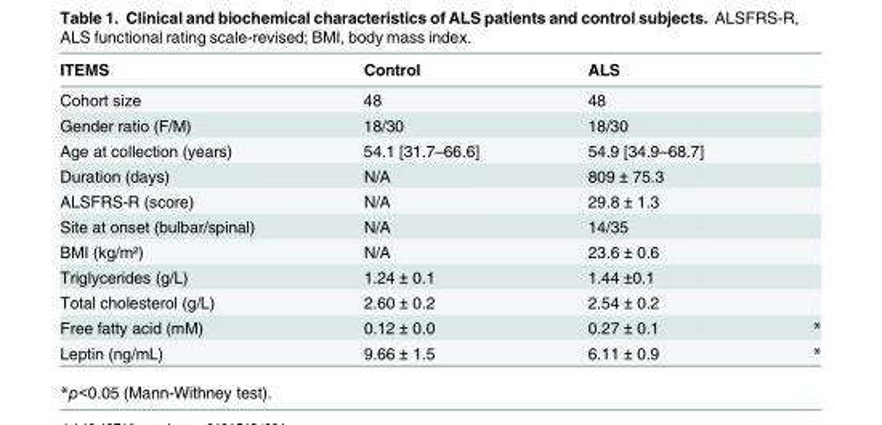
<table><thead><tr><td>ITEMS</td><td>Control</td><td>ALS</td><td></td></tr></thead><tbody><tr><td>Cohort size</td><td>48</td><td>48</td><td></td></tr><tr><td>Gender ratio (F/M)</td><td>18/30</td><td>18/30</td><td></td></tr><tr><td>Age at collection (years)</td><td>54.1 [31.7–66.6]</td><td>54.9 [34.9–68.7]</td><td></td></tr><tr><td>Duration (days)</td><td>N/A</td><td>809 ± 75.3</td><td></td></tr><tr><td>ALSFRS-R (score)</td><td>N/A</td><td>29.8 ± 1.3</td><td></td></tr><tr><td>Site at onset (bulbar/spinal)</td><td>N/A</td><td>14/35</td><td></td></tr><tr><td>BMI (kg/m²)</td><td>N/A</td><td>23.6 ± 0.6</td><td></td></tr><tr><td>Triglycerides (g/L)</td><td>1.24 ± 0.1</td><td>1.44 ±0.1</td><td></td></tr><tr><td>Total cholesterol (g/L)</td><td>2.60 ± 0.2</td><td>2.54 ± 0.2</td><td></td></tr><tr><td>Free fatty acid (mM)</td><td>0.12 ± 0.0</td><td>0.27 ± 0.1</td><td>*</td></tr><tr><td>Leptin (ng/mL)</td><td>9.66 ± 1.5</td><td>6.11 ± 0.9</td><td>*</td></tr></tbody></table>